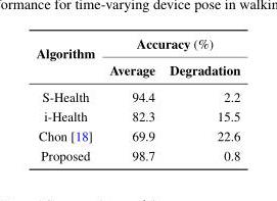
<table><thead><tr><td rowspan="2">Algorithm</td><td colspan="2">Accuracy (%)</td></tr><tr><td>Average</td><td>Degradation</td></tr></thead><tbody><tr><td>S-Health</td><td>94.4</td><td>2.2</td></tr><tr><td>i-Health</td><td>82.3</td><td>15.5</td></tr><tr><td>Chon [18]</td><td>69.9</td><td>22.6</td></tr><tr><td>Proposed</td><td>98.7</td><td>0.8</td></tr></tbody></table>